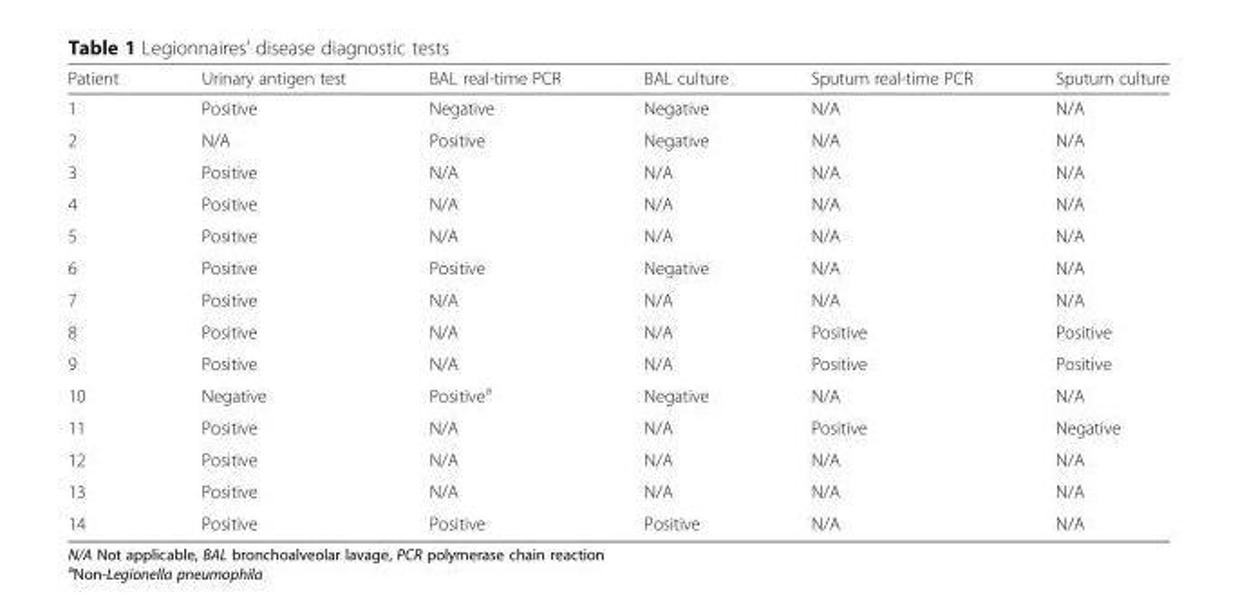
<table><thead><tr><td>Patient</td><td>Urinary antigen test</td><td>BAL real-time PCR</td><td>BAL culture</td><td>Sputum real-time PCR</td><td>Sputum culture</td></tr></thead><tbody><tr><td>1</td><td>Positive</td><td>Negative</td><td>Negative</td><td>N/A</td><td>N/A</td></tr><tr><td>2</td><td>N/A</td><td>Positive</td><td>Negative</td><td>N/A</td><td>N/A</td></tr><tr><td>3</td><td>Positive</td><td>N/A</td><td>N/A</td><td>N/A</td><td>N/A</td></tr><tr><td>4</td><td>Positive</td><td>N/A</td><td>N/A</td><td>N/A</td><td>N/A</td></tr><tr><td>5</td><td>Positive</td><td>N/A</td><td>N/A</td><td>N/A</td><td>N/A</td></tr><tr><td>6</td><td>Positive</td><td>Positive</td><td>Negative</td><td>N/A</td><td>N/A</td></tr><tr><td>7</td><td>Positive</td><td>N/A</td><td>N/A</td><td>N/A</td><td>N/A</td></tr><tr><td>8</td><td>Positive</td><td>N/A</td><td>N/A</td><td>Positive</td><td>Positive</td></tr><tr><td>9</td><td>Positive</td><td>N/A</td><td>N/A</td><td>Positive</td><td>Positive</td></tr><tr><td>10</td><td>Negative</td><td>Positive<sup>a</sup></td><td>Negative</td><td>N/A</td><td>N/A</td></tr><tr><td>11</td><td>Positive</td><td>N/A</td><td>N/A</td><td>Positive</td><td>Negative</td></tr><tr><td>12</td><td>Positive</td><td>N/A</td><td>N/A</td><td>N/A</td><td>N/A</td></tr><tr><td>13</td><td>Positive</td><td>N/A</td><td>N/A</td><td>N/A</td><td>N/A</td></tr><tr><td>14</td><td>Positive</td><td>Positive</td><td>Positive</td><td>N/A</td><td>N/A</td></tr></tbody></table>